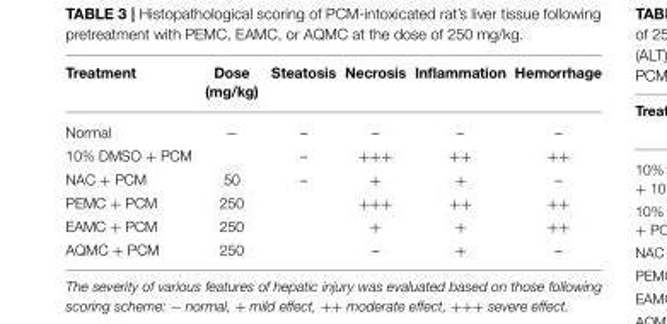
<table><thead><tr><td>Treatment</td><td>Dose (mg/kg)</td><td>Steatosis</td><td>Necrosis</td><td>Inflammation</td><td>Hemorrhage</td></tr></thead><tbody><tr><td>Normal</td><td>−</td><td>–</td><td>–</td><td>–</td><td>–</td></tr><tr><td>10% DMSO + PCM</td><td></td><td>–</td><td>+++</td><td>++</td><td>++</td></tr><tr><td>NAC + PCM</td><td>50</td><td>–</td><td>+</td><td>+</td><td>–</td></tr><tr><td>PEMC + PCM</td><td>250</td><td></td><td>+++</td><td>++</td><td>++</td></tr><tr><td>EAMC + PCM</td><td>250</td><td></td><td>+</td><td>+</td><td>++</td></tr><tr><td>AQMC + PCM</td><td>250</td><td></td><td>–</td><td>+</td><td>–</td></tr></tbody></table>